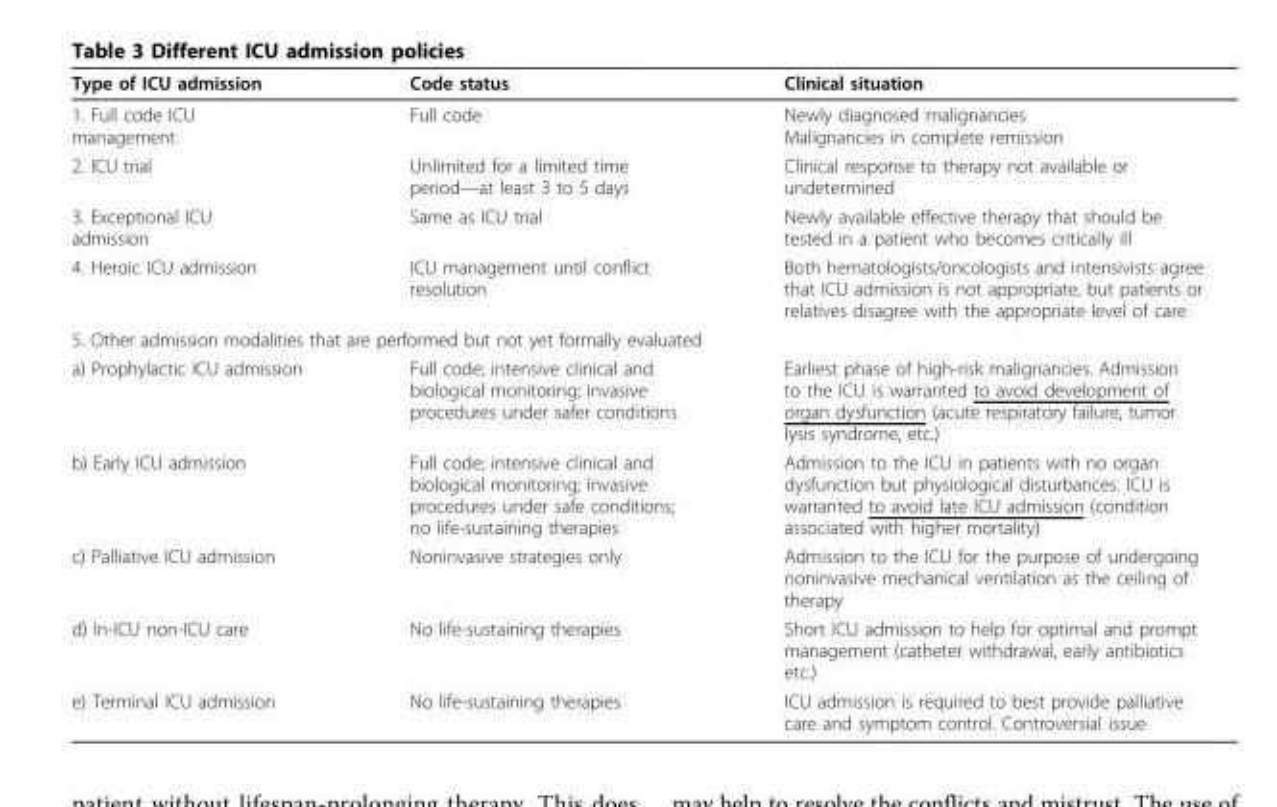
<table><thead><tr><td>Type of ICU admission</td><td>Code status</td><td>Clinical situation</td></tr></thead><tbody><tr><td>1. Full code ICU management</td><td>Full code</td><td>Newly diagnosed malignancies Malignancies in complete remission</td></tr><tr><td>2. ICU trial</td><td>Unlimited for a limited time period—at least 3 to 5 days</td><td>Clinical response to therapy not available or undetermined</td></tr><tr><td>3. Exceptional ICU admission</td><td>Same as ICU trial</td><td>Newly available effective therapy that should be tested in a patient who becomes critically ill</td></tr><tr><td>4. Heroic ICU admission</td><td>ICU management until conflict resolution</td><td>Both hematologists/oncologists and intensivists agree that ICU admission is not appropriate, but patients or relatives disagree with the appropriate level of care</td></tr><tr><td colspan="3">5. Other admission modalities that are performed but not yet formally evaluated</td></tr><tr><td>a) Prophylactic ICU admission</td><td>Full code; intensive clinical and biological monitoring; invasive procedures under safer conditions</td><td>Earliest phase of high-risk malignancies. Admission to the ICU is warranted to avoid development of organ dysfunction (acute respiratory failure, tumor lysis syndrome, etc.)</td></tr><tr><td>b) Early ICU admission</td><td>Full code; intensive clinical and biological monitoring; invasive procedures under safe conditions; no life-sustaining therapies</td><td>Admission to the ICU in patients with no organ dysfunction but physiological disturbances. ICU is warranted to avoid late ICU admission (condition associated with higher mortality)</td></tr><tr><td>c) Palliative ICU admission</td><td>Noninvasive strategies only</td><td>Admission to the ICU for the purpose of undergoing noninvasive mechanical ventilation as the ceiling of therapy</td></tr><tr><td>d) In-ICU non-ICU care</td><td>No life-sustaining therapies</td><td>Short ICU admission to help for optimal and prompt management (catheter withdrawal, early antibiotics etc.)</td></tr><tr><td>e) Terminal ICU admission</td><td>No life-sustaining therapies</td><td>ICU admission is required to best provide palliative care and symptom control. Controversial issue</td></tr></tbody></table>